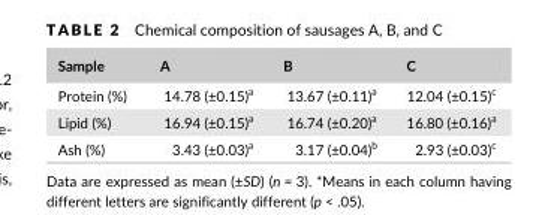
<table><thead><tr><td>Sample</td><td>A</td><td>B</td><td>C</td></tr></thead><tbody><tr><td>Protein (%)</td><td>14.78 (±0.15)<sup>a</sup></td><td>13.67 (±0.11)<sup>a</sup></td><td>12.04 (±0.15)<sup>c</sup></td></tr><tr><td>Lipid (%)</td><td>16.94 (±0.15)<sup>a</sup></td><td>16.74 (±0.20)<sup>a</sup></td><td>16.80 (±0.16)<sup>a</sup></td></tr><tr><td>Ash (%)</td><td>3.43 (±0.03)<sup>a</sup></td><td>3.17 (±0.04)<sup>b</sup></td><td>2.93 (±0.03)<sup>c</sup></td></tr></tbody></table>